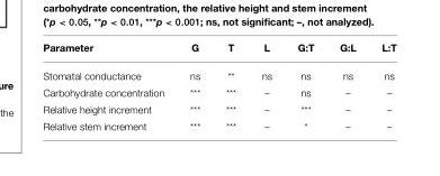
<table><thead><tr><td>Parameter</td><td>G</td><td>T</td><td>L</td><td>G:T</td><td>G:L</td><td>L:T</td></tr></thead><tbody><tr><td>Stomatal conductance</td><td>ns</td><td>**</td><td>ns</td><td>ns</td><td>ns</td><td>ns</td></tr><tr><td>Carbohydrate concentration</td><td>***</td><td>***</td><td>–</td><td>ns</td><td>–</td><td>–</td></tr><tr><td>Relative height increment</td><td>***</td><td>***</td><td>–</td><td>***</td><td>–</td><td>–</td></tr><tr><td>Relative stem increment</td><td>***</td><td>***</td><td>–</td><td>*</td><td>–</td><td>–</td></tr></tbody></table>